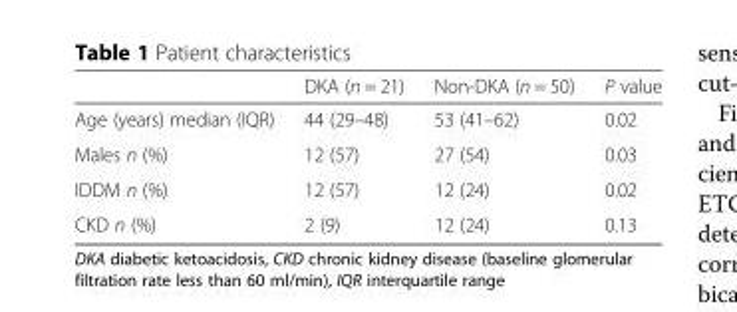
<table><thead><tr><td></td><td>DKA (n = 21)</td><td>Non-DKA (n = 50)</td><td>P value</td></tr></thead><tbody><tr><td>Age (years) median (IQR)</td><td>44 (29–48)</td><td>53 (41–62)</td><td>0.02</td></tr><tr><td>Males n (%)</td><td>12 (57)</td><td>27 (54)</td><td>0.03</td></tr><tr><td>IDDM n (%)</td><td>12 (57)</td><td>12 (24)</td><td>0.02</td></tr><tr><td>CKD n (%)</td><td>2 (9)</td><td>12 (24)</td><td>0.13</td></tr></tbody></table>